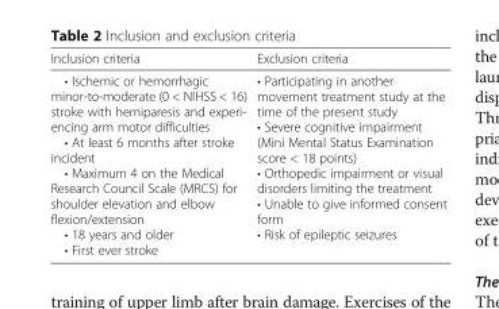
<table><thead><tr><td>Inclusion criteria</td><td>Exclusion criteria</td></tr></thead><tbody><tr><td>• Ischemic or hemorrhagic minor-to-moderate (0 &lt; NIHSS &lt; 16) stroke with hemiparesis and experi- encing arm motor difficulties • At least 6 months after stroke incident • Maximum 4 on the Medical Research Council Scale (MRCS) for shoulder elevation and elbow flexion/extension • 18 years and older • First ever stroke</td><td>• Participating in another movement treatment study at the time of the present study • Severe cognitive impairment (Mini Mental Status Examination score &lt; 18 points) • Orthopedic impairment or visual disorders limiting the treatment • Unable to give informed consent form • Risk of epileptic seizures</td></tr></tbody></table>